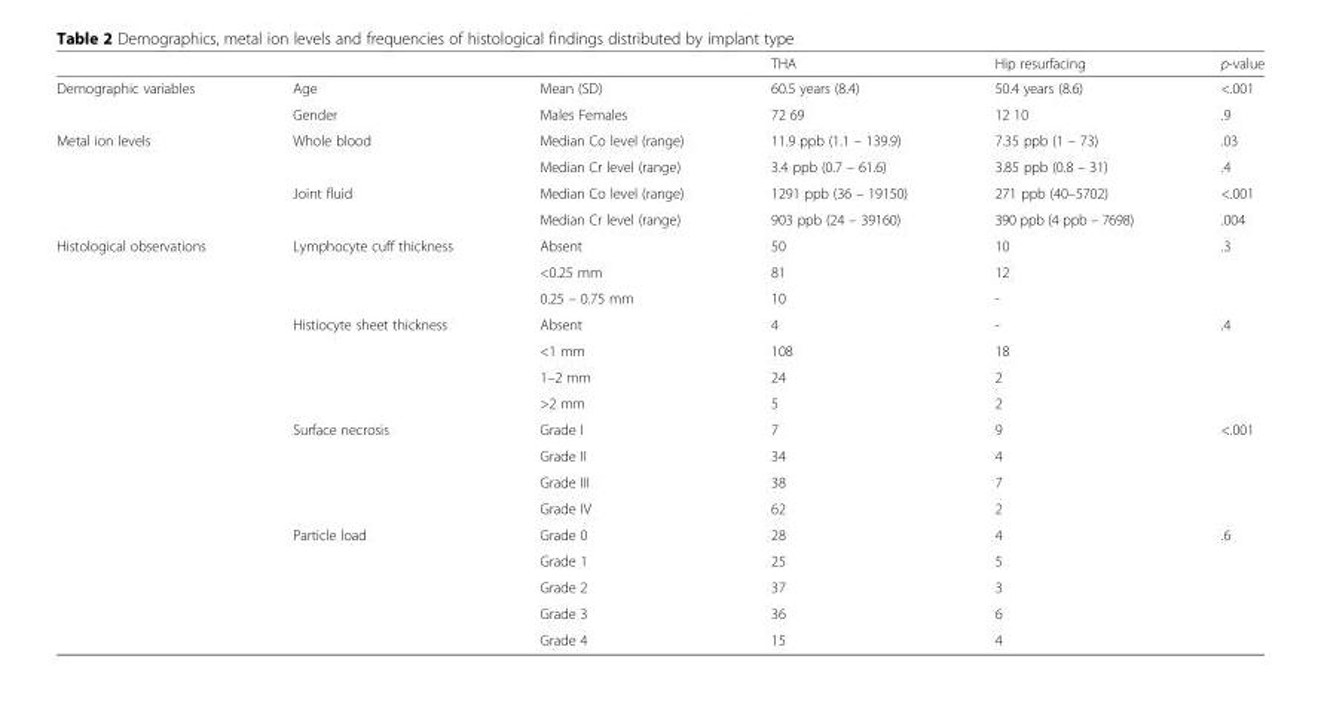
<table><thead><tr><td></td><td></td><td></td><td>THA</td><td>Hip resurfacing</td><td>p-value</td></tr></thead><tbody><tr><td rowspan="2">Demographic variables</td><td>Age</td><td>Mean (SD)</td><td>60.5 years (8.4)</td><td>50.4 years (8.6)</td><td>&lt;.001</td></tr><tr><td>Gender</td><td>Males Females</td><td>72 69</td><td>12 10</td><td>.9</td></tr><tr><td rowspan="4">Metal ion levels</td><td>Whole blood</td><td>Median Co level (range)</td><td>11.9 ppb (1.1 – 139.9)</td><td>7.35 ppb (1 – 73)</td><td>.03</td></tr><tr><td></td><td>Median Cr level (range)</td><td>3.4 ppb (0.7 – 61.6)</td><td>3.85 ppb (0.8 – 31)</td><td>.4</td></tr><tr><td>Joint fluid</td><td>Median Co level (range)</td><td>1291 ppb (36 – 19150)</td><td>271 ppb (40–5702)</td><td>&lt;.001</td></tr><tr><td></td><td>Median Cr level (range)</td><td>903 ppb (24 – 39160)</td><td>390 ppb (4 ppb – 7698)</td><td>.004</td></tr><tr><td rowspan="16">Histological observations</td><td rowspan="3">Lymphocyte cuff thickness</td><td>Absent</td><td>50</td><td>10</td><td>.3</td></tr><tr><td>&lt;0.25 mm</td><td>81</td><td>12</td><td></td></tr><tr><td>0.25 – 0.75 mm</td><td>10</td><td>-</td><td></td></tr><tr><td rowspan="4">Histiocyte sheet thickness</td><td>Absent</td><td>4</td><td>-</td><td rowspan="4">.4</td></tr><tr><td>&lt;1 mm</td><td>108</td><td>18</td></tr><tr><td>1–2 mm</td><td>24</td><td>2</td></tr><tr><td>&gt;2 mm</td><td>5</td><td>2</td></tr><tr><td rowspan="4">Surface necrosis</td><td>Grade I</td><td>7</td><td>9</td><td rowspan="4">&lt;.001</td></tr><tr><td>Grade II</td><td>34</td><td>4</td></tr><tr><td>Grade III</td><td>38</td><td>7</td></tr><tr><td>Grade IV</td><td>62</td><td>2</td></tr><tr><td rowspan="5">Particle load</td><td>Grade 0</td><td>28</td><td>4</td><td rowspan="5">.6</td></tr><tr><td>Grade 1</td><td>25</td><td>5</td></tr><tr><td>Grade 2</td><td>37</td><td>3</td></tr><tr><td>Grade 3</td><td>36</td><td>6</td></tr><tr><td>Grade 4</td><td>15</td><td>4</td></tr></tbody></table>